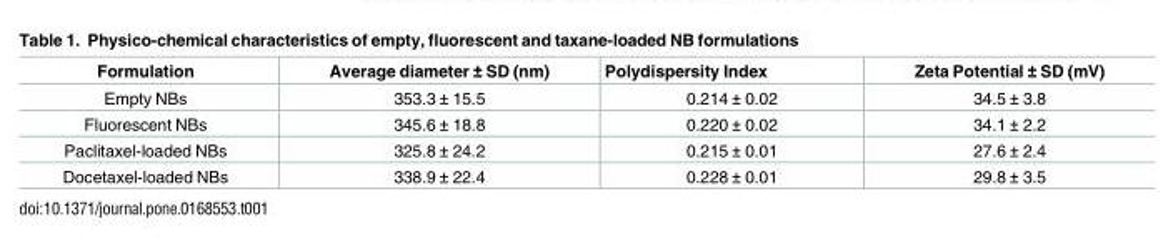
<table><thead><tr><td>Formulation</td><td>Average diameter ± SD (nm)</td><td>Polydispersity Index</td><td>Zeta Potential ± SD (mV)</td></tr></thead><tbody><tr><td>Empty NBs</td><td>353.3 ± 15.5</td><td>0.214 ± 0.02</td><td>34.5 ± 3.8</td></tr><tr><td>Fluorescent NBs</td><td>345.6 ± 18.8</td><td>0.220 ± 0.02</td><td>34.1 ± 2.2</td></tr><tr><td>Paclitaxel-loaded NBs</td><td>325.8 ± 24.2</td><td>0.215 ± 0.01</td><td>27.6 ± 2.4</td></tr><tr><td>Docetaxel-loaded NBs</td><td>338.9 ± 22.4</td><td>0.228 ± 0.01</td><td>29.8 ± 3.5</td></tr></tbody></table>